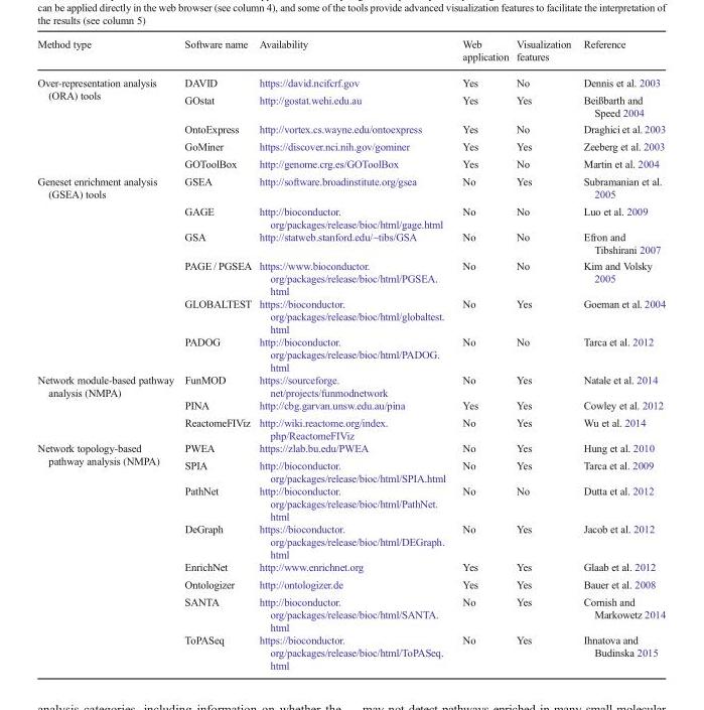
<table><thead><tr><td>Method type</td><td>Software name</td><td>Availability</td><td>Web application</td><td>Visualization features</td><td>Reference</td></tr></thead><tbody><tr><td rowspan="5">Over-representation analysis (ORA) tools</td><td>DAVID</td><td>https://david.ncifcrf.gov</td><td>Yes</td><td>No</td><td>Dennis et al. 2003</td></tr><tr><td>GOstat</td><td>http://gostat.wehi.edu.au</td><td>Yes</td><td>Yes</td><td>Beißbarth and Speed 2004</td></tr><tr><td>OntoExpress</td><td>http://vortex.cs.wayne.edu/ontoexpress</td><td>Yes</td><td>No</td><td>Draghici et al. 2003</td></tr><tr><td>GoMiner</td><td>https://discover.nci.nih.gov/gominer</td><td>Yes</td><td>Yes</td><td>Zeeberg et al. 2003</td></tr><tr><td>GOToolBox</td><td>http://genome.crg.es/GOToolBox</td><td>Yes</td><td>No</td><td>Martin et al. 2004</td></tr><tr><td rowspan="6">Geneset enrichment analysis (GSEA) tools</td><td>GSEA</td><td>http://software.broadinstitute.org/gsea</td><td>No</td><td>Yes</td><td>Subramanian et al. 2005</td></tr><tr><td>GAGE</td><td>http://bioconductor. org/packages/release/bioc/html/gage.html</td><td>No</td><td>No</td><td>Luo et al. 2009</td></tr><tr><td>GSA</td><td>http://statweb.stanford.edu/~tibs/GSA</td><td>No</td><td>No</td><td>Efron and Tibshirani 2007</td></tr><tr><td>PAGE / PGSEA</td><td>https://www.bioconductor. org/packages/release/bioc/html/PGSEA. html</td><td>No</td><td>No</td><td>Kim and Volsky 2005</td></tr><tr><td>GLOBALTEST</td><td>https://bioconductor. org/packages/release/bioc/html/globaltest. html</td><td>No</td><td>Yes</td><td>Goeman et al. 2004</td></tr><tr><td>PADOG</td><td>http://bioconductor. org/packages/release/bioc/html/PADOG. html</td><td>No</td><td>No</td><td>Tarca et al. 2012</td></tr><tr><td rowspan="3">Network module-based pathway analysis (NMPA)</td><td>FunMOD</td><td>https://sourceforge. net/projects/funmodnetwork</td><td>No</td><td>Yes</td><td>Natale et al. 2014</td></tr><tr><td>PINA</td><td>http://cbg.garvan.unsw.edu.au/pina</td><td>Yes</td><td>Yes</td><td>Cowley et al. 2012</td></tr><tr><td>ReactomeFIViz</td><td>http://wiki.reactome.org/index. php/ReactomeFIViz</td><td>No</td><td>Yes</td><td>Wu et al. 2014</td></tr><tr><td rowspan="8">Network topology-based pathway analysis (NMPA)</td><td>PWEA</td><td>https://zlab.bu.edu/PWEA</td><td>No</td><td>Yes</td><td>Hung et al. 2010</td></tr><tr><td>SPIA</td><td>http://bioconductor. org/packages/release/bioc/html/SPIA.html</td><td>No</td><td>Yes</td><td>Tarca et al. 2009</td></tr><tr><td>PathNet</td><td>http://bioconductor. org/packages/release/bioc/html/PathNet. html</td><td>No</td><td>No</td><td>Dutta et al. 2012</td></tr><tr><td>DeGraph</td><td>https://bioconductor. org/packages/release/bioc/html/DEGraph. html</td><td>No</td><td>Yes</td><td>Jacob et al. 2012</td></tr><tr><td>EnrichNet</td><td>http://www.enrichnet.org</td><td>Yes</td><td>Yes</td><td>Glaab et al. 2012</td></tr><tr><td>Ontologizer</td><td>http://ontologizer.de</td><td>Yes</td><td>Yes</td><td>Bauer et al. 2008</td></tr><tr><td>SANTA</td><td>http://bioconductor. org/packages/release/bioc/html/SANTA. html</td><td>No</td><td>Yes</td><td>Cornish and Markowetz 2014</td></tr><tr><td>ToPASeq</td><td>https://bioconductor. org/packages/release/bioc/html/ToPASeq. html</td><td>No</td><td>Yes</td><td>Ihnatova and Budinska 2015</td></tr></tbody></table>